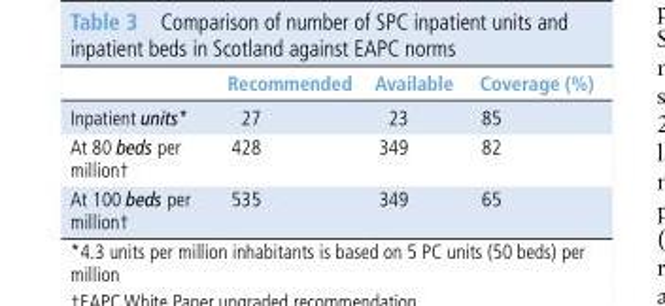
<table><thead><tr><td></td><td>Recommended</td><td>Available</td><td>Coverage (%)</td></tr></thead><tbody><tr><td>Inpatient units*</td><td>27</td><td>23</td><td>85</td></tr><tr><td>At 80 beds per million†</td><td>428</td><td>349</td><td>82</td></tr><tr><td>At 100 beds per million†</td><td>535</td><td>349</td><td>65</td></tr></tbody></table>